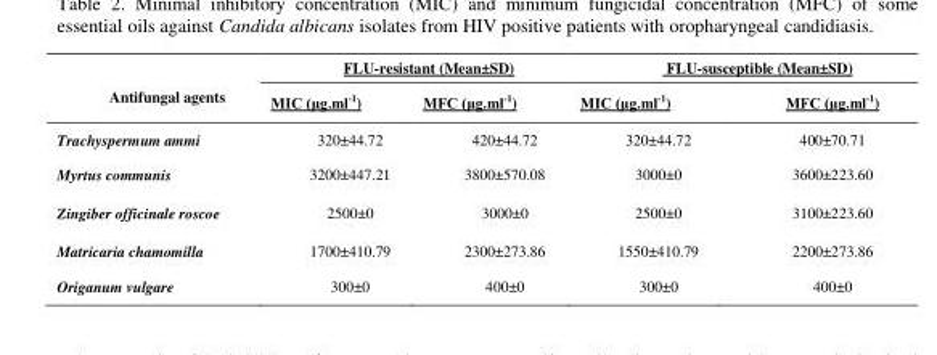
<table><thead><tr><td rowspan="2">Antifungal agents</td><td colspan="2">FLU-resistant (Mean±SD)</td><td colspan="2">FLU-susceptible (Mean±SD)</td></tr><tr><td>MIC (μg.ml<sup>-1</sup>)</td><td>MFC (μg.ml<sup>-1</sup>)</td><td>MIC (μg.ml<sup>-1</sup>)</td><td>MFC (μg.ml<sup>-1</sup>)</td></tr></thead><tbody><tr><td>Trachyspermum ammi</td><td>320±44.72</td><td>420±44.72</td><td>320±44.72</td><td>400±70.71</td></tr><tr><td>Myrtus communis</td><td>3200±447.21</td><td>3800±570.08</td><td>3000±0</td><td>3600±223.60</td></tr><tr><td>Zingiber officinale roscoe</td><td>2500±0</td><td>3000±0</td><td>2500±0</td><td>3100±223.60</td></tr><tr><td>Matricaria chamomilla</td><td>1700±410.79</td><td>2300±273.86</td><td>1550±410.79</td><td>2200±273.86</td></tr><tr><td>Origanum vulgare</td><td>300±0</td><td>400±0</td><td>300±0</td><td>400±0</td></tr></tbody></table>